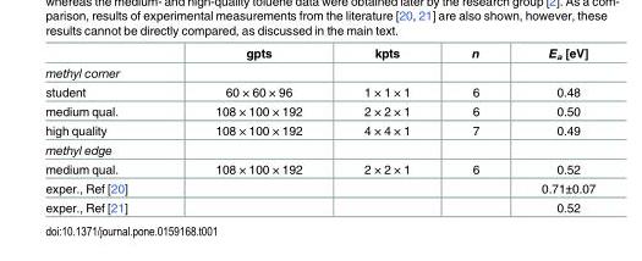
<table><thead><tr><td></td><td>gpts</td><td>kpts</td><td>n</td><td>E<sub>a</sub> [eV]</td></tr></thead><tbody><tr><td colspan="5">methyl corner</td></tr><tr><td>student</td><td>60 × 60 × 96</td><td>1 × 1 × 1</td><td>6</td><td>0.48</td></tr><tr><td>medium qual.</td><td>108 × 100 × 192</td><td>2 × 2 × 1</td><td>6</td><td>0.50</td></tr><tr><td>high quality</td><td>108 × 100 × 192</td><td>4 × 4 × 1</td><td>7</td><td>0.49</td></tr><tr><td colspan="5">methyl edge</td></tr><tr><td>medium qual.</td><td>108 × 100 × 192</td><td>2 × 2 × 1</td><td>6</td><td>0.52</td></tr><tr><td>exper., Ref [20]</td><td></td><td></td><td></td><td>0.71±0.07</td></tr><tr><td>exper., Ref [21]</td><td></td><td></td><td></td><td>0.52</td></tr></tbody></table>